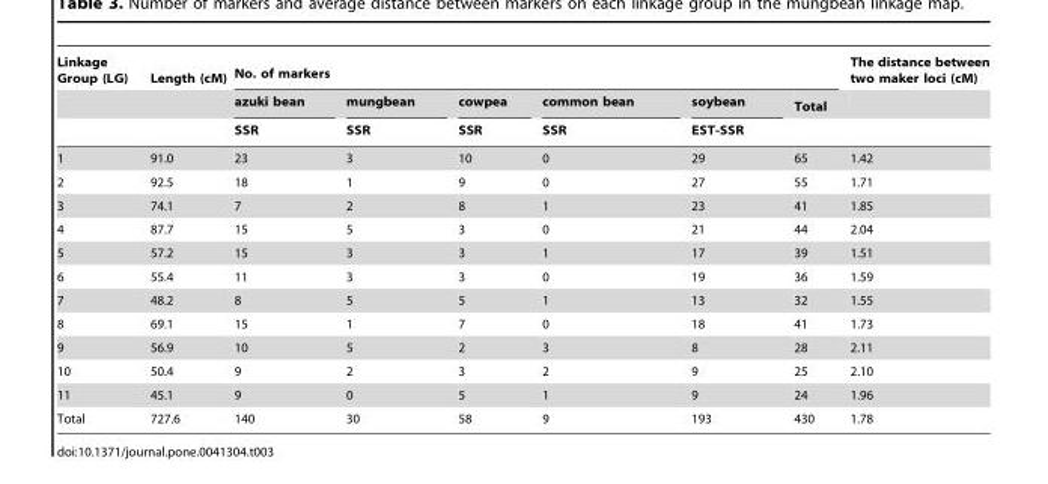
<table><thead><tr><td rowspan="3">Linkage Group (LG)</td><td rowspan="3">Length (cM)</td><td colspan="6">No. of markers</td><td rowspan="3">The distance between two maker loci (cM)</td></tr><tr><td rowspan="2">azuki bean SSR</td><td rowspan="2">mungbean SSR</td><td rowspan="2">cowpea SSR</td><td rowspan="2">common bean SSR</td><td rowspan="2">soybean EST-SSR</td><td rowspan="2">Total</td></tr><tr></tr></thead><tbody><tr><td>1</td><td>91.0</td><td>23</td><td>3</td><td>10</td><td>0</td><td>29</td><td>65</td><td>1.42</td></tr><tr><td>2</td><td>92.5</td><td>18</td><td>1</td><td>9</td><td>0</td><td>27</td><td>55</td><td>1.71</td></tr><tr><td>3</td><td>74.1</td><td>7</td><td>2</td><td>8</td><td>1</td><td>23</td><td>41</td><td>1.85</td></tr><tr><td>4</td><td>87.7</td><td>15</td><td>5</td><td>3</td><td>0</td><td>21</td><td>44</td><td>2.04</td></tr><tr><td>5</td><td>57.2</td><td>15</td><td>3</td><td>3</td><td>1</td><td>17</td><td>39</td><td>1.51</td></tr><tr><td>6</td><td>55.4</td><td>11</td><td>3</td><td>3</td><td>0</td><td>19</td><td>36</td><td>1.59</td></tr><tr><td>7</td><td>48.2</td><td>8</td><td>5</td><td>5</td><td>1</td><td>13</td><td>32</td><td>1.55</td></tr><tr><td>8</td><td>69.1</td><td>15</td><td>1</td><td>7</td><td>0</td><td>18</td><td>41</td><td>1.73</td></tr><tr><td>9</td><td>56.9</td><td>10</td><td>5</td><td>2</td><td>3</td><td>8</td><td>28</td><td>2.11</td></tr><tr><td>10</td><td>50.4</td><td>9</td><td>2</td><td>3</td><td>2</td><td>9</td><td>25</td><td>2.10</td></tr><tr><td>11</td><td>45.1</td><td>9</td><td>0</td><td>5</td><td>1</td><td>9</td><td>24</td><td>1.96</td></tr><tr><td>Total</td><td>727.6</td><td>140</td><td>30</td><td>58</td><td>9</td><td>193</td><td>430</td><td>1.78</td></tr></tbody></table>